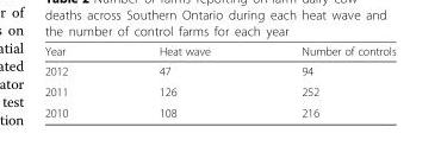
<table><thead><tr><td>Year</td><td>Heat wave</td><td>Number of controls</td></tr></thead><tbody><tr><td>2012</td><td>47</td><td>94</td></tr><tr><td>2011</td><td>126</td><td>252</td></tr><tr><td>2010</td><td>108</td><td>216</td></tr></tbody></table>